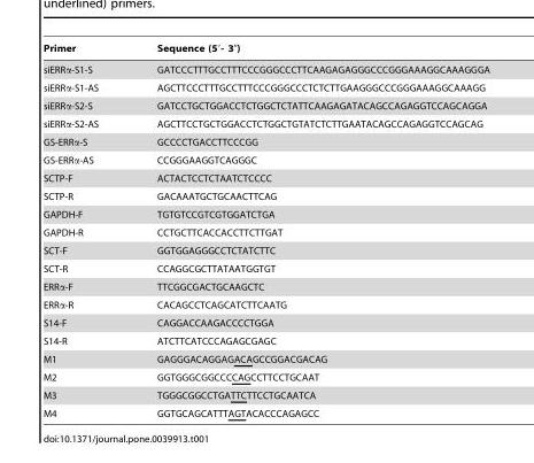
<table><thead><tr><td>Primer</td><td>Sequence (5′- 3″)</td></tr></thead><tbody><tr><td>siERRα-S1-S</td><td>GATCCCTTTGCCTTTCCCGGGCCCTTCAAGAGAGGGCCCGGGAAAGGCAAAGGGA</td></tr><tr><td>siERRα-S1-AS</td><td>AGCTTCCCTTTGCCTTTCCCGGGCCCTCTCTTGAAGGGCCCGGGAAAGGCAAAGG</td></tr><tr><td>siERRα-S2-S</td><td>GATCCTGCTGGACCTCTGGCTCTATTCAAGAGATACAGCCAGAGGTCCAGCAGGA</td></tr><tr><td>siERRα-S2-AS</td><td>AGCTTCCTGCTGGACCTCTGGCTGTATCTCTTGAATACAGCCAGAGGTCCAGCAG</td></tr><tr><td>GS-ERRα-S</td><td>GCCCCTGACCTTCCCGG</td></tr><tr><td>GS-ERRα-AS</td><td>CCGGGAAGGTCAGGGC</td></tr><tr><td>SCTP-F</td><td>ACTACTCCTCTAATCTCCCC</td></tr><tr><td>SCTP-R</td><td>GACAAATGCTGCAACTTCAG</td></tr><tr><td>GAPDH-F</td><td>TGTGTCCGTCGTGGATCTGA</td></tr><tr><td>GAPDH-R</td><td>CCTGCTTCACCACCTTCTTGAT</td></tr><tr><td>SCT-F</td><td>GGTGGAGGGCCTCTATCTTC</td></tr><tr><td>SCT-R</td><td>CCAGGCGCTTATAATGGTGT</td></tr><tr><td>ERRα-F</td><td>TTCGGCGACTGCAAGCTC</td></tr><tr><td>ERRα-R</td><td>CACAGCCTCAGCATCTTCAATG</td></tr><tr><td>S14-F</td><td>CAGGACCAAGACCCCTGGA</td></tr><tr><td>S14-R</td><td>ATCTTCATCCCAGAGCGAGC</td></tr><tr><td>M1</td><td>GAGGGACAGGAGACAGCCGGACGACAG</td></tr><tr><td>M2</td><td>GGTGGGCGGCCCCAGCCTTCCTGCAAT</td></tr><tr><td>M3</td><td>TGGGCGGCCTGATTCTTCCTGCAATCA</td></tr><tr><td>M4</td><td>GGTGCAGCATTTAGTACACCCAGAGCC</td></tr></tbody></table>